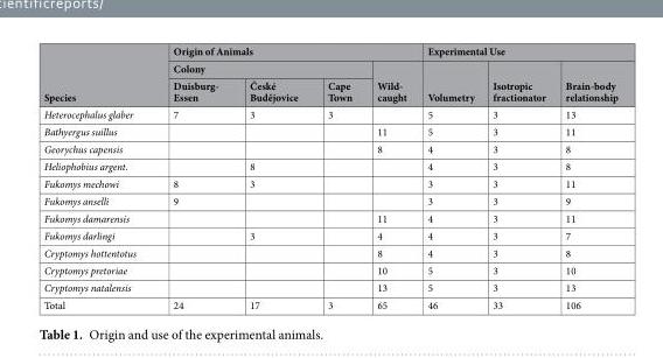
<table><thead><tr><td rowspan="3">Species</td><td colspan="4">Origin of Animals</td><td colspan="3">Experimental Use</td></tr><tr><td colspan="3">Colony</td><td rowspan="2">Wild- caught</td><td rowspan="2">Volumetry</td><td rowspan="2">Isotropic fractionator</td><td rowspan="2">Brain-body relationship</td></tr><tr><td>Duisburg- Essen</td><td>České Budějovice</td><td>Cape Town</td></tr></thead><tbody><tr><td>Heterocephalus glaber</td><td>7</td><td>3</td><td>3</td><td></td><td>5</td><td>3</td><td>13</td></tr><tr><td>Bathyergus suillus</td><td></td><td></td><td></td><td>11</td><td>5</td><td>3</td><td>11</td></tr><tr><td>Georychus capensis</td><td></td><td></td><td></td><td>8</td><td>4</td><td>3</td><td>8</td></tr><tr><td>Heliophobius argent.</td><td></td><td>8</td><td></td><td></td><td>4</td><td>3</td><td>8</td></tr><tr><td>Fukomys mechowi</td><td>8</td><td>3</td><td></td><td></td><td>3</td><td>3</td><td>11</td></tr><tr><td>Fukomys anselli</td><td>9</td><td></td><td></td><td></td><td>3</td><td>3</td><td>9</td></tr><tr><td>Fukomys damarensis</td><td></td><td></td><td></td><td>11</td><td>4</td><td>3</td><td>11</td></tr><tr><td>Fukomys darlingi</td><td></td><td>3</td><td></td><td>4</td><td>4</td><td>3</td><td>7</td></tr><tr><td>Cryptomys hottentotus</td><td></td><td></td><td></td><td>8</td><td>4</td><td>3</td><td>8</td></tr><tr><td>Cryptomys pretoriae</td><td></td><td></td><td></td><td>10</td><td>5</td><td>3</td><td>10</td></tr><tr><td>Cryptomys natalensis</td><td></td><td></td><td></td><td>13</td><td>5</td><td>3</td><td>13</td></tr><tr><td>Total</td><td>24</td><td>17</td><td>3</td><td>65</td><td>46</td><td>33</td><td>106</td></tr></tbody></table>